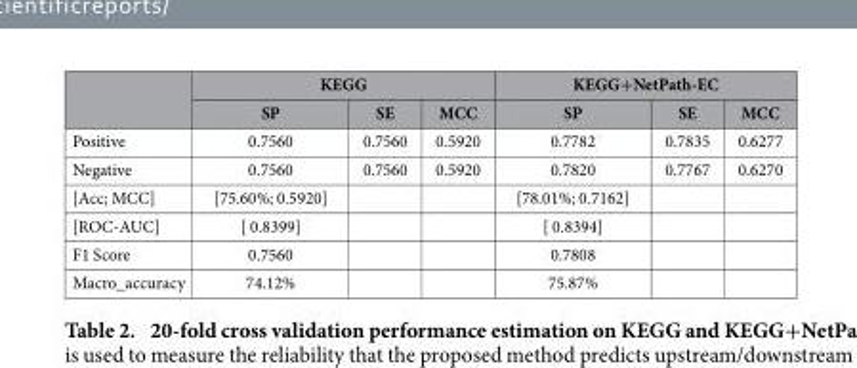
<table><thead><tr><td rowspan="2"></td><td colspan="3">KEGG</td><td colspan="3">KEGG+NetPath-EC</td></tr><tr><td>SP</td><td>SE</td><td>MCC</td><td>SP</td><td>SE</td><td>MCC</td></tr></thead><tbody><tr><td>Positive</td><td>0.7560</td><td>0.7560</td><td>0.5920</td><td>0.7782</td><td>0.7835</td><td>0.6277</td></tr><tr><td>Negative</td><td>0.7560</td><td>0.7560</td><td>0.5920</td><td>0.7820</td><td>0.7767</td><td>0.6270</td></tr><tr><td>[Acc; MCC]</td><td>[75.60%; 0.5920]</td><td></td><td></td><td>[78.01%; 0.7162]</td><td></td><td></td></tr><tr><td>[ROC-AUC]</td><td>[ 0.8399]</td><td></td><td></td><td>[ 0.8394]</td><td></td><td></td></tr><tr><td>F1 Score</td><td>0.7560</td><td></td><td></td><td>0.7808</td><td></td><td></td></tr><tr><td>Macro_accuracy</td><td>74.12%</td><td></td><td></td><td>75.87%</td><td></td><td></td></tr></tbody></table>